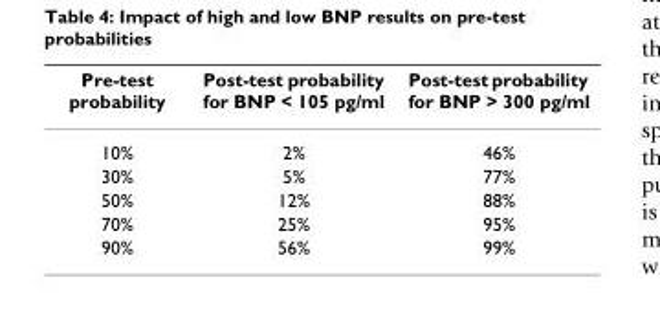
<table><thead><tr><td>Pre-test probability</td><td>Post-test probability for BNP &lt; 105 pg/ml</td><td>Post-test probability for BNP &gt; 300 pg/ml</td></tr></thead><tbody><tr><td>10%</td><td>2%</td><td>46%</td></tr><tr><td>30%</td><td>5%</td><td>77%</td></tr><tr><td>50%</td><td>12%</td><td>88%</td></tr><tr><td>70%</td><td>25%</td><td>95%</td></tr><tr><td>90%</td><td>56%</td><td>99%</td></tr></tbody></table>